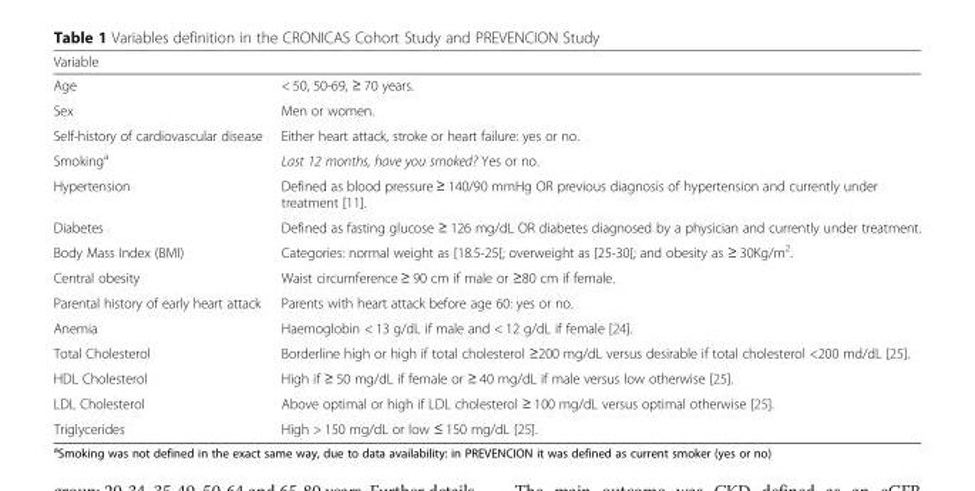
<table><thead><tr><td>Variable</td><td></td></tr></thead><tbody><tr><td>Age</td><td>&lt; 50, 50-69, ≥ 70 years.</td></tr><tr><td>Sex</td><td>Men or women.</td></tr><tr><td>Self-history of cardiovascular disease</td><td>Either heart attack, stroke or heart failure: yes or no.</td></tr><tr><td>Smoking<sup>a</sup></td><td>Last 12 months, have you smoked? Yes or no.</td></tr><tr><td>Hypertension</td><td>Defined as blood pressure ≥ 140/90 mmHg OR previous diagnosis of hypertension and currently under treatment [11].</td></tr><tr><td>Diabetes</td><td>Defined as fasting glucose ≥ 126 mg/dL OR diabetes diagnosed by a physician and currently under treatment.</td></tr><tr><td>Body Mass Index (BMI)</td><td>Categories: normal weight as [18.5-25[; overweight as [25-30[; and obesity as ≥ 30Kg/m<sup>2</sup>.</td></tr><tr><td>Central obesity</td><td>Waist circumference ≥ 90 cm if male or ≥80 cm if female.</td></tr><tr><td>Parental history of early heart attack</td><td>Parents with heart attack before age 60: yes or no.</td></tr><tr><td>Anemia</td><td>Haemoglobin &lt; 13 g/dL if male and &lt; 12 g/dL if female [24].</td></tr><tr><td>Total Cholesterol</td><td>Borderline high or high if total cholesterol ≥200 mg/dL versus desirable if total cholesterol &lt;200 md/dL [25].</td></tr><tr><td>HDL Cholesterol</td><td>High if ≥ 50 mg/dL if female or ≥ 40 mg/dL if male versus low otherwise [25].</td></tr><tr><td>LDL Cholesterol</td><td>Above optimal or high if LDL cholesterol ≥ 100 mg/dL versus optimal otherwise [25].</td></tr><tr><td>Triglycerides</td><td>High &gt; 150 mg/dL or low ≤ 150 mg/dL [25].</td></tr></tbody></table>